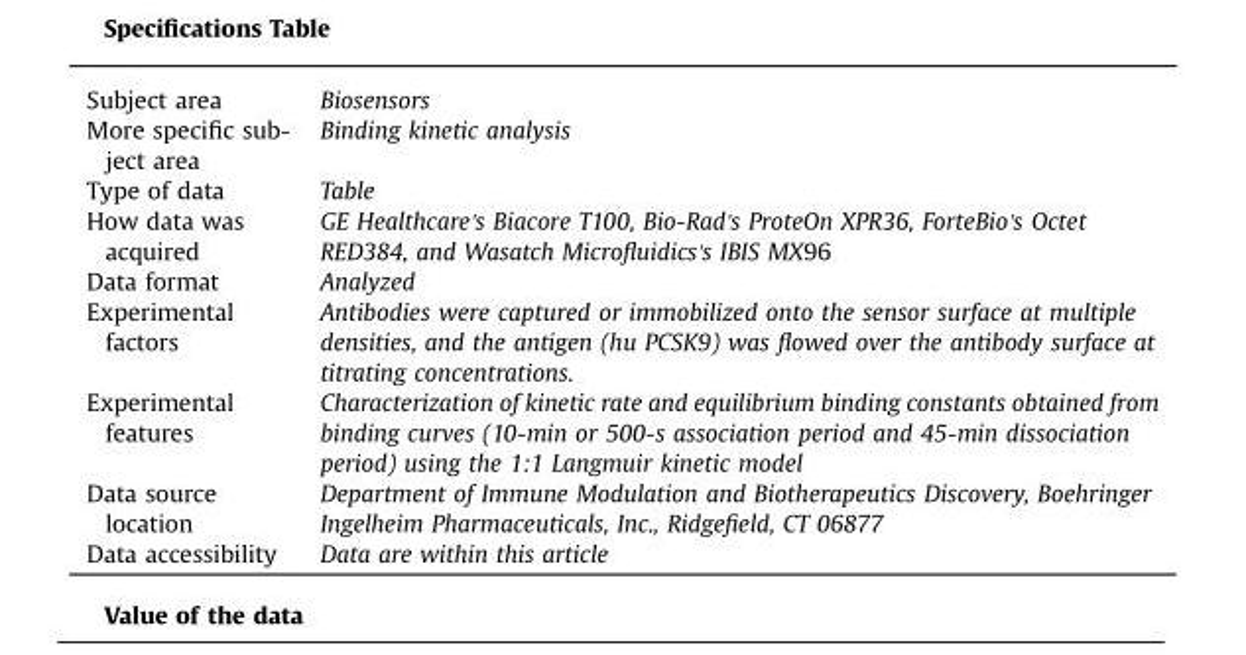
<table><tbody><tr><td>Subject area</td><td>Biosensors</td></tr><tr><td>More specific sub- ject area</td><td>Binding kinetic analysis</td></tr><tr><td>Type of data</td><td>Table</td></tr><tr><td>How data was acquired</td><td>GE Healthcare&#x27;s Biacore T100, Bio-Rad&#x27;s ProteOn XPR36, ForteBio&#x27;s Octet RED384, and Wasatch Microfluidics&#x27;s IBIS MX96</td></tr><tr><td>Data format</td><td>Analyzed</td></tr><tr><td>Experimental factors</td><td>Antibodies were captured or immobilized onto the sensor surface at multiple densities, and the antigen (hu PCSK9) was flowed over the antibody surface at titrating concentrations.</td></tr><tr><td>Experimental features</td><td>Characterization of kinetic rate and equilibrium binding constants obtained from binding curves (10-min or 500-s association period and 45-min dissociation period) using the 1:1 Langmuir kinetic model</td></tr><tr><td>Data source location</td><td>Department of Immune Modulation and Biotherapeutics Discovery, Boehringer Ingelheim Pharmaceuticals, Inc., Ridgefield, CT 06877</td></tr><tr><td>Data accessibility</td><td>Data are within this article</td></tr></tbody></table>